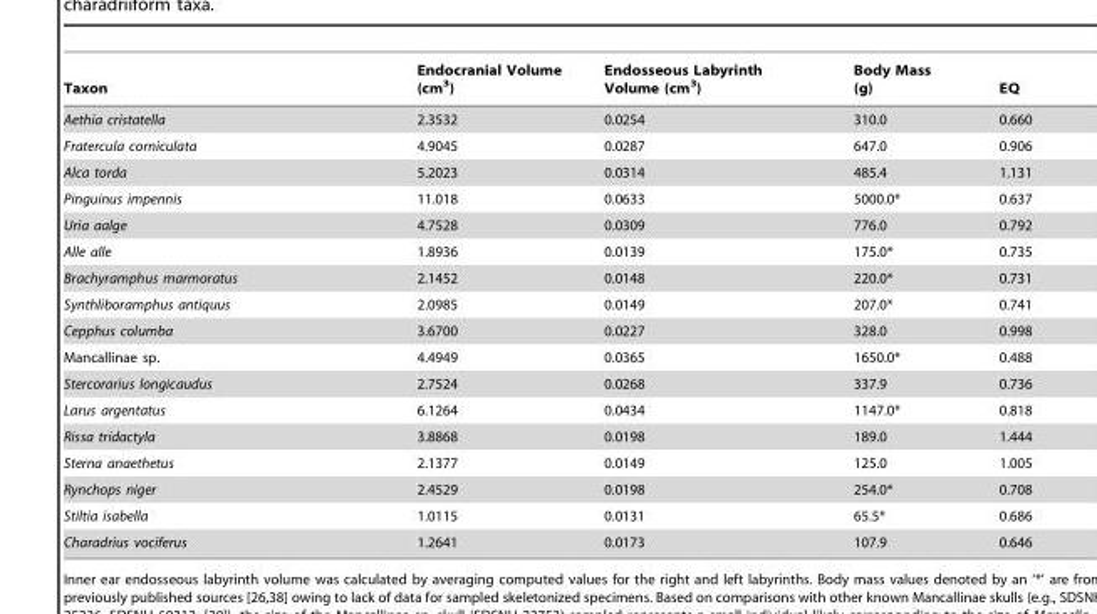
<table><thead><tr><td>Taxon</td><td>Endocranial Volume (cm<sup>3</sup>)</td><td>Endosseous Labyrinth Volume (cm<sup>3</sup>)</td><td>Body Mass (g)</td><td>EQ</td></tr></thead><tbody><tr><td>Aethia cristatella</td><td>2.3532</td><td>0.0254</td><td>310.0</td><td>0.660</td></tr><tr><td>Fratercula corniculata</td><td>4.9045</td><td>0.0287</td><td>647.0</td><td>0.906</td></tr><tr><td>Alca torda</td><td>5.2023</td><td>0.0314</td><td>485.4</td><td>1.131</td></tr><tr><td>Pinguinus impennis</td><td>11.018</td><td>0.0633</td><td>5000.0*</td><td>0.637</td></tr><tr><td>Uria aalge</td><td>4.7528</td><td>0.0309</td><td>776.0</td><td>0.792</td></tr><tr><td>Alle alle</td><td>1.8936</td><td>0.0139</td><td>175.0*</td><td>0.735</td></tr><tr><td>Brachyramphus marmoratus</td><td>2.1452</td><td>0.0148</td><td>220.0*</td><td>0.731</td></tr><tr><td>Synthliboramphus antiquus</td><td>2.0985</td><td>0.0149</td><td>207.0*</td><td>0.741</td></tr><tr><td>Cepphus columba</td><td>3.6700</td><td>0.0227</td><td>328.0</td><td>0.998</td></tr><tr><td>Mancallinae sp.</td><td>4.4949</td><td>0.0365</td><td>1650.0*</td><td>0.488</td></tr><tr><td>Stercorarius longicaudus</td><td>2.7524</td><td>0.0268</td><td>337.9</td><td>0.736</td></tr><tr><td>Larus argentatus</td><td>6.1264</td><td>0.0434</td><td>1147.0*</td><td>0.818</td></tr><tr><td>Rissa tridactyla</td><td>3.8868</td><td>0.0198</td><td>189.0</td><td>1.444</td></tr><tr><td>Sterna anaethetus</td><td>2.1377</td><td>0.0149</td><td>125.0</td><td>1.005</td></tr><tr><td>Rynchops niger</td><td>2.4529</td><td>0.0198</td><td>254.0*</td><td>0.708</td></tr><tr><td>Stiltia isabella</td><td>1.0115</td><td>0.0131</td><td>65.5*</td><td>0.686</td></tr><tr><td>Charadrius vociferus</td><td>1.2641</td><td>0.0173</td><td>107.9</td><td>0.646</td></tr></tbody></table>